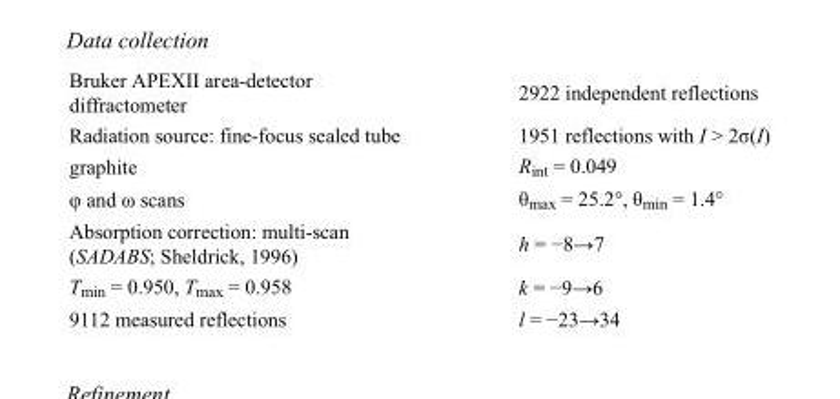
<table><tbody><tr><td>Bruker APEXII area-detector diffractometer</td><td>2922 independent reflections</td></tr><tr><td>Radiation source: fine-focus sealed tube</td><td>1951 reflections with I &gt; 2σ(I)</td></tr><tr><td>graphite</td><td>R<sub>int</sub> = 0.049</td></tr><tr><td>φ and ω scans</td><td>θ<sub>max</sub> = 25.2°, θ<sub>min</sub> = 1.4°</td></tr><tr><td>Absorption correction: multi-scan (SADABS; Sheldrick, 1996)</td><td>h = −8→7</td></tr><tr><td>T<sub>min</sub> = 0.950, T<sub>max</sub> = 0.958</td><td>k = −9→6</td></tr><tr><td>9112 measured reflections</td><td>l = −23→34</td></tr></tbody></table>